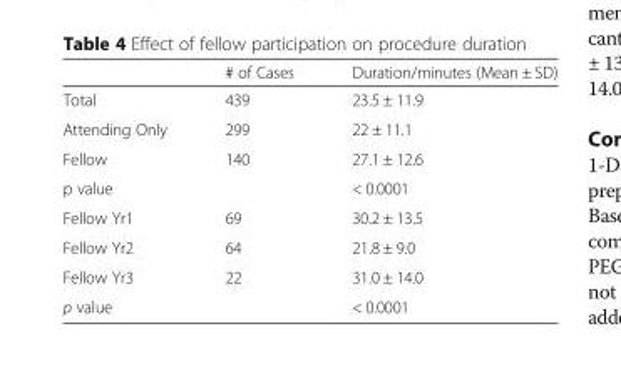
<table><thead><tr><td></td><td># of Cases</td><td>Duration/minutes (Mean ± SD)</td></tr></thead><tbody><tr><td>Total</td><td>439</td><td>23.5 ± 11.9</td></tr><tr><td>Attending Only</td><td>299</td><td>22 ± 11.1</td></tr><tr><td>Fellow</td><td>140</td><td>27.1 ± 12.6</td></tr><tr><td>p value</td><td></td><td>&lt; 0.0001</td></tr><tr><td>Fellow Yr1</td><td>69</td><td>30.2 ± 13.5</td></tr><tr><td>Fellow Yr2</td><td>64</td><td>21.8 ± 9.0</td></tr><tr><td>Fellow Yr3</td><td>22</td><td>31.0 ± 14.0</td></tr><tr><td>p value</td><td></td><td>&lt; 0.0001</td></tr></tbody></table>